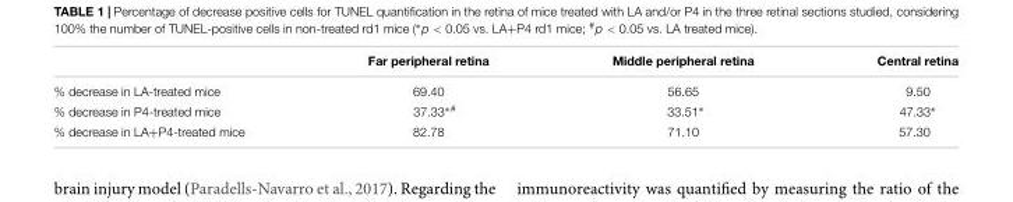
<table><thead><tr><td></td><td>Far peripheral retina</td><td>Middle peripheral retina</td><td>Central retina</td></tr></thead><tbody><tr><td>% decrease in LA-treated mice</td><td>69.40</td><td>56.65</td><td>9.50</td></tr><tr><td>% decrease in P4-treated mice</td><td>37.33<sup>∗#</sup></td><td>33.51∗</td><td>47.33∗</td></tr><tr><td>% decrease in LA+P4-treated mice</td><td>82.78</td><td>71.10</td><td>57.30</td></tr></tbody></table>